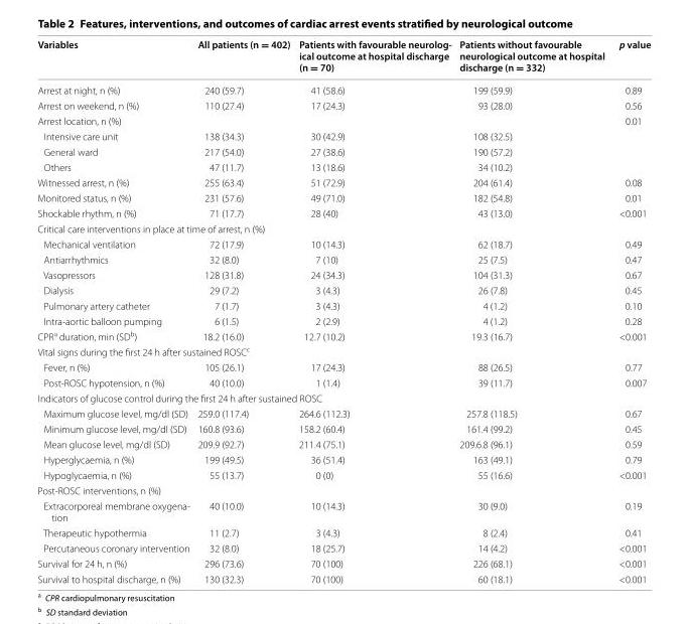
<table><thead><tr><td>Variables</td><td>All patients (n = 402)</td><td>Patients with favourable neurolog- ical outcome at hospital discharge (n = 70)</td><td>Patients without favourable neurological outcome at hospital discharge (n = 332)</td><td>p value</td></tr></thead><tbody><tr><td>Arrest at night, n (%)</td><td>240 (59.7)</td><td>41 (58.6)</td><td>199 (59.9)</td><td>0.89</td></tr><tr><td>Arrest on weekend, n (%)</td><td>110 (27.4)</td><td>17 (24.3)</td><td>93 (28.0)</td><td>0.56</td></tr><tr><td colspan="4">Arrest location, n (%)</td><td>0.01</td></tr><tr><td>Intensive care unit</td><td>138 (34.3)</td><td>30 (42.9)</td><td>108 (32.5)</td><td></td></tr><tr><td>General ward</td><td>217 (54.0)</td><td>27 (38.6)</td><td>190 (57.2)</td><td></td></tr><tr><td>Others</td><td>47 (11.7)</td><td>13 (18.6)</td><td>34 (10.2)</td><td></td></tr><tr><td>Witnessed arrest, n (%)</td><td>255 (63.4)</td><td>51 (72.9)</td><td>204 (61.4)</td><td>0.08</td></tr><tr><td>Monitored status, n (%)</td><td>231 (57.6)</td><td>49 (71.0)</td><td>182 (54.8)</td><td>0.01</td></tr><tr><td>Shockable rhythm, n (%)</td><td>71 (17.7)</td><td>28 (40)</td><td>43 (13.0)</td><td>&lt;0.001</td></tr><tr><td colspan="5">Critical care interventions in place at time of arrest, n (%)</td></tr><tr><td>Mechanical ventilation</td><td>72 (17.9)</td><td>10 (14.3)</td><td>62 (18.7)</td><td>0.49</td></tr><tr><td>Antiarrhythmics</td><td>32 (8.0)</td><td>7 (10)</td><td>25 (7.5)</td><td>0.47</td></tr><tr><td>Vasopressors</td><td>128 (31.8)</td><td>24 (34.3)</td><td>104 (31.3)</td><td>0.67</td></tr><tr><td>Dialysis</td><td>29 (7.2)</td><td>3 (4.3)</td><td>26 (7.8)</td><td>0.45</td></tr><tr><td>Pulmonary artery catheter</td><td>7 (1.7)</td><td>3 (4.3)</td><td>4 (1.2)</td><td>0.10</td></tr><tr><td>Intra‑aortic balloon pumping</td><td>6 (1.5)</td><td>2 (2.9)</td><td>4 (1.2)</td><td>0.28</td></tr><tr><td>CPR<sup>a</sup> duration, min (SD<sup>b</sup>)</td><td>18.2 (16.0)</td><td>12.7 (10.2)</td><td>19.3 (16.7)</td><td>&lt;0.001</td></tr><tr><td colspan="5">Vital signs during the first 24 h after sustained ROSC<sup>c</sup></td></tr><tr><td>Fever, n (%)</td><td>105 (26.1)</td><td>17 (24.3)</td><td>88 (26.5)</td><td>0.77</td></tr><tr><td>Post‑ROSC hypotension, n (%)</td><td>40 (10.0)</td><td>1 (1.4)</td><td>39 (11.7)</td><td>0.007</td></tr><tr><td colspan="5">Indicators of glucose control during the first 24 h after sustained ROSC</td></tr><tr><td>Maximum glucose level, mg/dl (SD)</td><td>259.0 (117.4)</td><td>264.6 (112.3)</td><td>257.8 (118.5)</td><td>0.67</td></tr><tr><td>Minimum glucose level, mg/dl (SD)</td><td>160.8 (93.6)</td><td>158.2 (60.4)</td><td>161.4 (99.2)</td><td>0.45</td></tr><tr><td>Mean glucose level, mg/dl (SD)</td><td>209.9 (92.7)</td><td>211.4 (75.1)</td><td>209.6.8 (96.1)</td><td>0.59</td></tr><tr><td>Hyperglycaemia, n (%)</td><td>199 (49.5)</td><td>36 (51.4)</td><td>163 (49.1)</td><td>0.79</td></tr><tr><td>Hypoglycaemia, n (%)</td><td>55 (13.7)</td><td>0 (0)</td><td>55 (16.6)</td><td>&lt;0.001</td></tr><tr><td colspan="5">Post‑ROSC interventions, n (%)</td></tr><tr><td>Extracorporeal membrane oxygena‑ tion</td><td>40 (10.0)</td><td>10 (14.3)</td><td>30 (9.0)</td><td>0.19</td></tr><tr><td>Therapeutic hypothermia</td><td>11 (2.7)</td><td>3 (4.3)</td><td>8 (2.4)</td><td>0.41</td></tr><tr><td>Percutaneous coronary intervention</td><td>32 (8.0)</td><td>18 (25.7)</td><td>14 (4.2)</td><td>&lt;0.001</td></tr><tr><td>Survival for 24 h, n (%)</td><td>296 (73.6)</td><td>70 (100)</td><td>226 (68.1)</td><td>&lt;0.001</td></tr><tr><td>Survival to hospital discharge, n (%)</td><td>130 (32.3)</td><td>70 (100)</td><td>60 (18.1)</td><td>&lt;0.001</td></tr></tbody></table>